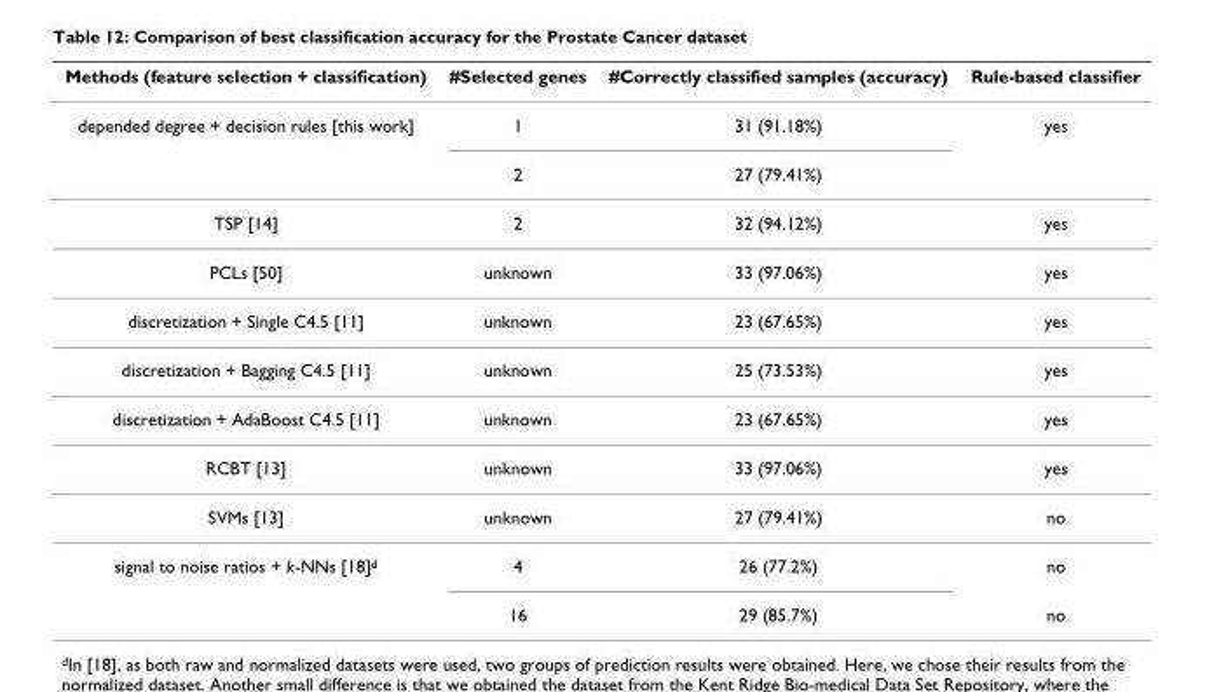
<table><thead><tr><td>Methods (feature selection + classification)</td><td>#Selected genes</td><td>#Correctly classified samples (accuracy)</td><td>Rule-based classifier</td></tr></thead><tbody><tr><td rowspan="2">depended degree + decision rules [this work]</td><td>1</td><td>31 (91.18%)</td><td>yes</td></tr><tr><td>2</td><td>27 (79.41%)</td><td></td></tr><tr><td>TSP [14]</td><td>2</td><td>32 (94.12%)</td><td>yes</td></tr><tr><td>PCLs [50]</td><td>unknown</td><td>33 (97.06%)</td><td>yes</td></tr><tr><td>discretization + Single C4.5 [11]</td><td>unknown</td><td>23 (67.65%)</td><td>yes</td></tr><tr><td>discretization + Bagging C4.5 [11]</td><td>unknown</td><td>25 (73.53%)</td><td>yes</td></tr><tr><td>discretization + AdaBoost C4.5 [11]</td><td>unknown</td><td>23 (67.65%)</td><td>yes</td></tr><tr><td>RCBT [13]</td><td>unknown</td><td>33 (97.06%)</td><td>yes</td></tr><tr><td>SVMs [13]</td><td>unknown</td><td>27 (79.41%)</td><td>no</td></tr><tr><td rowspan="2">signal to noise ratios + k-NNs [18]<sup>d</sup></td><td>4</td><td>26 (77.2%)</td><td>no</td></tr><tr><td>16</td><td>29 (85.7%)</td><td>no</td></tr></tbody></table>